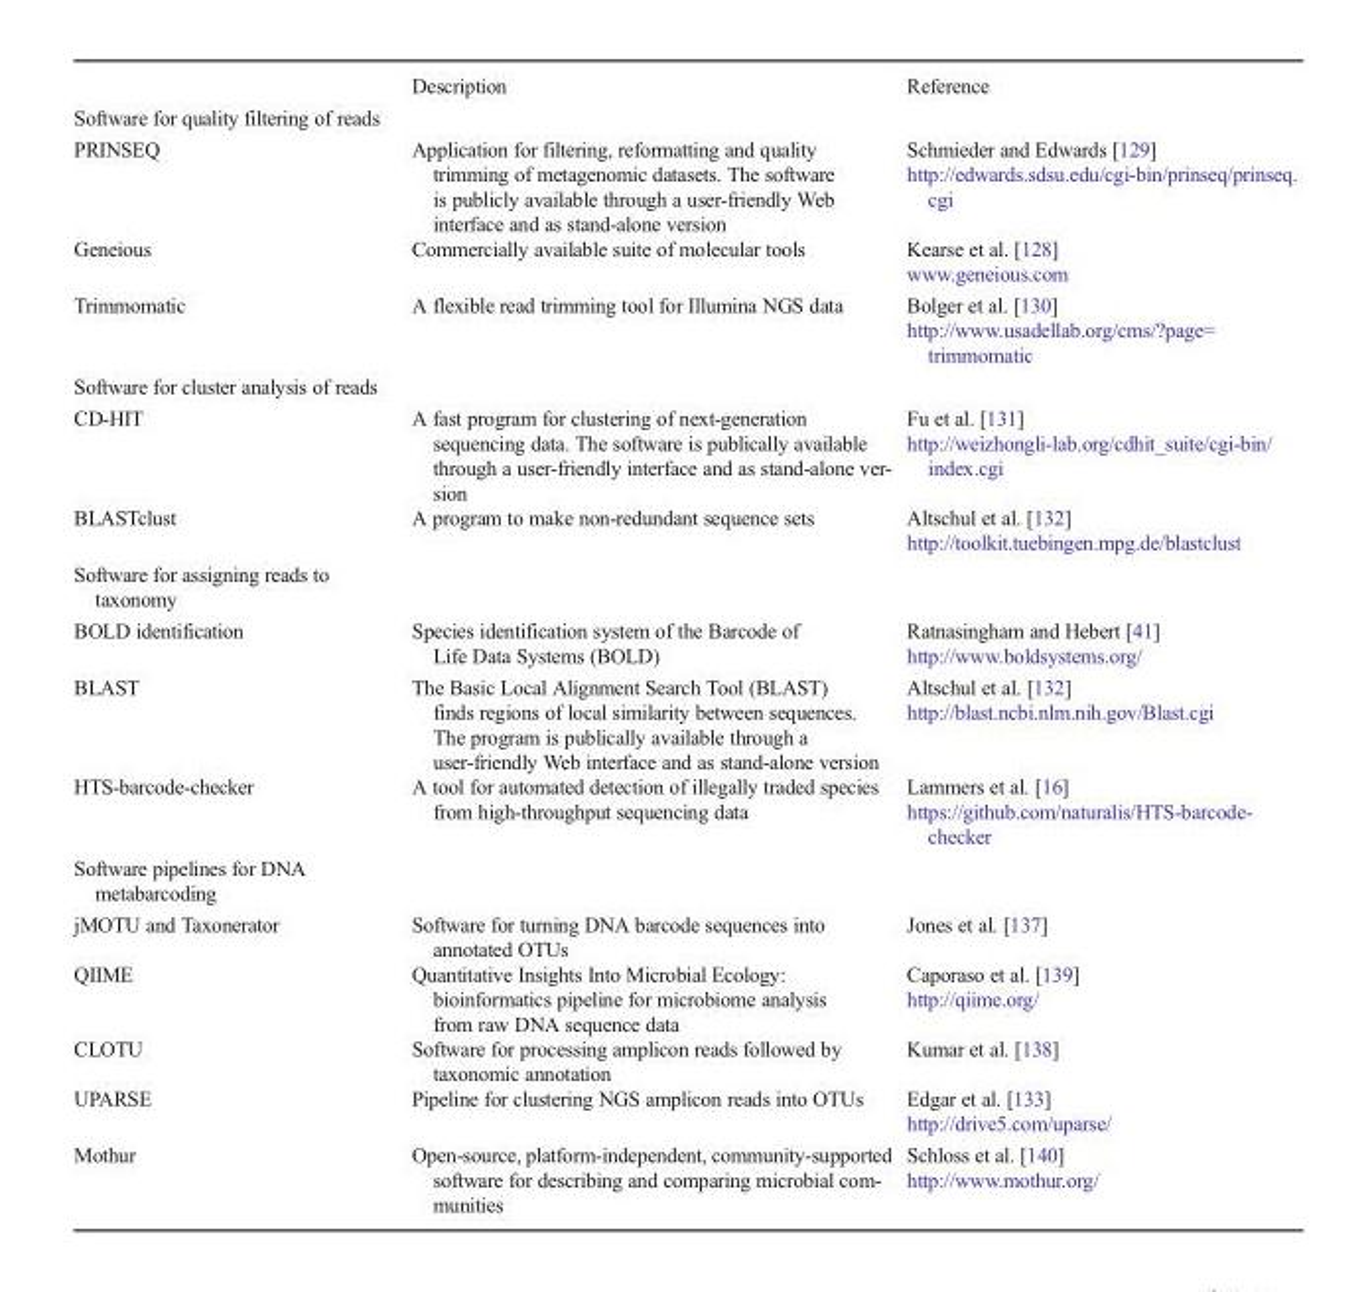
<table><thead><tr><td></td><td>Description</td><td>Reference</td></tr></thead><tbody><tr><td colspan="3">Software for quality filtering of reads</td></tr><tr><td>PRINSEQ</td><td>Application for filtering, reformatting and quality trimming of metagenomic datasets. The software is publicly available through a user-friendly Web interface and as stand-alone version</td><td>Schmieder and Edwards [129] http://edwards.sdsu.edu/cgi-bin/prinseq/prinseq. cgi</td></tr><tr><td>Geneious</td><td>Commercially available suite of molecular tools</td><td>Kearse et al. [128] www.geneious.com</td></tr><tr><td>Trimmomatic</td><td>A flexible read trimming tool for Illumina NGS data</td><td>Bolger et al. [130] http://www.usadellab.org/cms/?page= trimmomatic</td></tr><tr><td colspan="3">Software for cluster analysis of reads</td></tr><tr><td>CD-HIT</td><td>A fast program for clustering of next-generation sequencing data. The software is publically available through a user-friendly interface and as stand-alone ver- sion</td><td>Fu et al. [131] http://weizhongli-lab.org/cdhit_suite/cgi-bin/ index.cgi</td></tr><tr><td>BLASTclust</td><td>A program to make non-redundant sequence sets</td><td>Altschul et al. [132] http://toolkit.tuebingen.mpg.de/blastclust</td></tr><tr><td colspan="3">Software for assigning reads to taxonomy</td></tr><tr><td>BOLD identification</td><td>Species identification system of the Barcode of Life Data Systems (BOLD)</td><td>Ratnasingham and Hebert [41] http://www.boldsystems.org/</td></tr><tr><td>BLAST</td><td>The Basic Local Alignment Search Tool (BLAST) finds regions of local similarity between sequences. The program is publically available through a user-friendly Web interface and as stand-alone version</td><td>Altschul et al. [132] http://blast.ncbi.nlm.nih.gov/Blast.cgi</td></tr><tr><td>HTS-barcode-checker</td><td>A tool for automated detection of illegally traded species from high-throughput sequencing data</td><td>Lammers et al. [16] https://github.com/naturalis/HTS-barcode- checker</td></tr><tr><td colspan="3">Software pipelines for DNA metabarcoding</td></tr><tr><td>jMOTU and Taxonerator</td><td>Software for turning DNA barcode sequences into annotated OTUs</td><td>Jones et al. [137]</td></tr><tr><td>QIIME</td><td>Quantitative Insights Into Microbial Ecology: bioinformatics pipeline for microbiome analysis from raw DNA sequence data</td><td>Caporaso et al. [139] http://qiime.org/</td></tr><tr><td>CLOTU</td><td>Software for processing amplicon reads followed by taxonomic annotation</td><td>Kumar et al. [138]</td></tr><tr><td>UPARSE</td><td>Pipeline for clustering NGS amplicon reads into OTUs</td><td>Edgar et al. [133] http://drive5.com/uparse/</td></tr><tr><td>Mothur</td><td>Open-source, platform-independent, community-supported software for describing and comparing microbial com- munities</td><td>Schloss et al. [140] http://www.mothur.org/</td></tr></tbody></table>